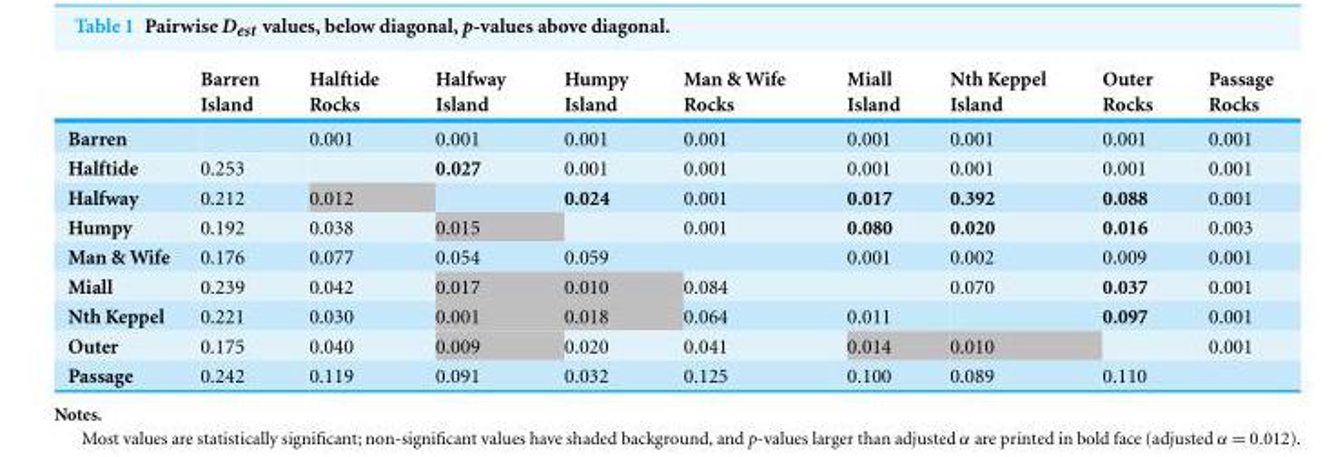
<table><thead><tr><td></td><td>Barren Island</td><td>Halftide Rocks</td><td>Halfway Island</td><td>Humpy Island</td><td>Man &amp; Wife Rocks</td><td>Miall Island</td><td>Nth Keppel Island</td><td>Outer Rocks</td><td>Passage Rocks</td></tr></thead><tbody><tr><td>Barren</td><td></td><td>0.001</td><td>0.001</td><td>0.001</td><td>0.001</td><td>0.001</td><td>0.001</td><td>0.001</td><td>0.001</td></tr><tr><td>Halftide</td><td>0.253</td><td></td><td>0.027</td><td>0.001</td><td>0.001</td><td>0.001</td><td>0.001</td><td>0.001</td><td>0.001</td></tr><tr><td>Halfway</td><td>0.212</td><td>0.012</td><td></td><td>0.024</td><td>0.001</td><td>0.017</td><td>0.392</td><td>0.088</td><td>0.001</td></tr><tr><td>Humpy</td><td>0.192</td><td>0.038</td><td>0.015</td><td></td><td>0.001</td><td>0.080</td><td>0.020</td><td>0.016</td><td>0.003</td></tr><tr><td>Man &amp; Wife</td><td>0.176</td><td>0.077</td><td>0.054</td><td>0.059</td><td></td><td>0.001</td><td>0.002</td><td>0.009</td><td>0.001</td></tr><tr><td>Miall</td><td>0.239</td><td>0.042</td><td>0.017</td><td>0.010</td><td>0.084</td><td></td><td>0.070</td><td>0.037</td><td>0.001</td></tr><tr><td>Nth Keppel</td><td>0.221</td><td>0.030</td><td>0.001</td><td>0.018</td><td>0.064</td><td>0.011</td><td></td><td>0.097</td><td>0.001</td></tr><tr><td>Outer</td><td>0.175</td><td>0.040</td><td>0.009</td><td>0.020</td><td>0.041</td><td>0.014</td><td>0.010</td><td></td><td>0.001</td></tr><tr><td>Passage</td><td>0.242</td><td>0.119</td><td>0.091</td><td>0.032</td><td>0.125</td><td>0.100</td><td>0.089</td><td>0.110</td><td></td></tr></tbody></table>